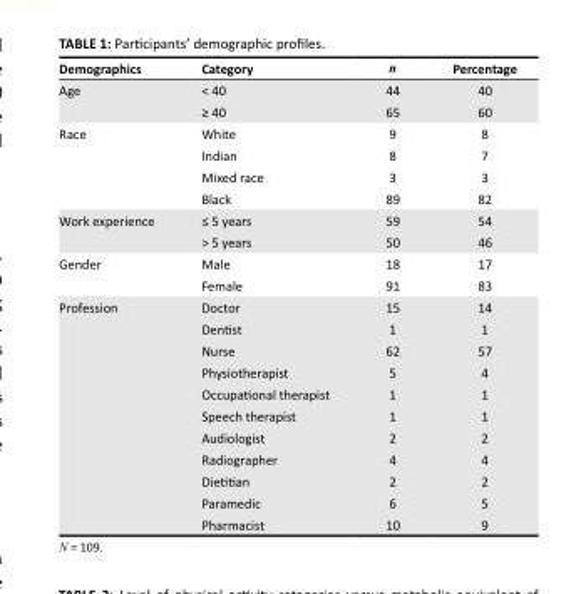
<table><thead><tr><td>Demographics</td><td>Category</td><td>n</td><td>Percentage</td></tr></thead><tbody><tr><td rowspan="2">Age</td><td>&lt; 40</td><td>44</td><td>40</td></tr><tr><td>≥ 40</td><td>65</td><td>60</td></tr><tr><td rowspan="4">Race</td><td>White</td><td>9</td><td>8</td></tr><tr><td>Indian</td><td>8</td><td>7</td></tr><tr><td>Mixed race</td><td>3</td><td>3</td></tr><tr><td>Black</td><td>89</td><td>82</td></tr><tr><td rowspan="2">Work experience</td><td>≤ 5 years</td><td>59</td><td>54</td></tr><tr><td>&gt; 5 years</td><td>50</td><td>46</td></tr><tr><td rowspan="2">Gender</td><td>Male</td><td>18</td><td>17</td></tr><tr><td>Female</td><td>91</td><td>83</td></tr><tr><td rowspan="11">Profession</td><td>Doctor</td><td>15</td><td>14</td></tr><tr><td>Dentist</td><td>1</td><td>1</td></tr><tr><td>Nurse</td><td>62</td><td>57</td></tr><tr><td>Physiotherapist</td><td>5</td><td>4</td></tr><tr><td>Occupational therapist</td><td>1</td><td>1</td></tr><tr><td>Speech therapist</td><td>1</td><td>1</td></tr><tr><td>Audiologist</td><td>2</td><td>2</td></tr><tr><td>Radiographer</td><td>4</td><td>4</td></tr><tr><td>Dietitian</td><td>2</td><td>2</td></tr><tr><td>Paramedic</td><td>6</td><td>5</td></tr><tr><td>Pharmacist</td><td>10</td><td>9</td></tr></tbody></table>